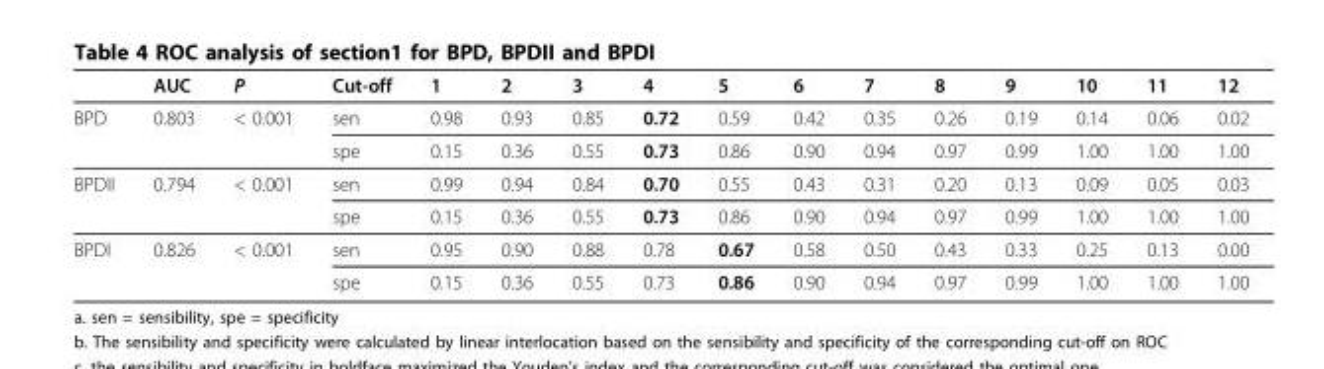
<table><thead><tr><td></td><td>AUC</td><td>P</td><td>Cut-off</td><td>1</td><td>2</td><td>3</td><td>4</td><td>5</td><td>6</td><td>7</td><td>8</td><td>9</td><td>10</td><td>11</td><td>12</td></tr></thead><tbody><tr><td rowspan="2">BPD</td><td>0.803</td><td>&lt; 0.001</td><td>sen</td><td>0.98</td><td>0.93</td><td>0.85</td><td>0.72</td><td>0.59</td><td>0.42</td><td>0.35</td><td>0.26</td><td>0.19</td><td>0.14</td><td>0.06</td><td>0.02</td></tr><tr><td></td><td></td><td>spe</td><td>0.15</td><td>0.36</td><td>0.55</td><td>0.73</td><td>0.86</td><td>0.90</td><td>0.94</td><td>0.97</td><td>0.99</td><td>1.00</td><td>1.00</td><td>1.00</td></tr><tr><td rowspan="2">BPDII</td><td>0.794</td><td>&lt; 0.001</td><td>sen</td><td>0.99</td><td>0.94</td><td>0.84</td><td>0.70</td><td>0.55</td><td>0.43</td><td>0.31</td><td>0.20</td><td>0.13</td><td>0.09</td><td>0.05</td><td>0.03</td></tr><tr><td></td><td></td><td>spe</td><td>0.15</td><td>0.36</td><td>0.55</td><td>0.73</td><td>0.86</td><td>0.90</td><td>0.94</td><td>0.97</td><td>0.99</td><td>1.00</td><td>1.00</td><td>1.00</td></tr><tr><td rowspan="2">BPDI</td><td>0.826</td><td>&lt; 0.001</td><td>sen</td><td>0.95</td><td>0.90</td><td>0.88</td><td>0.78</td><td>0.67</td><td>0.58</td><td>0.50</td><td>0.43</td><td>0.33</td><td>0.25</td><td>0.13</td><td>0.00</td></tr><tr><td></td><td></td><td>spe</td><td>0.15</td><td>0.36</td><td>0.55</td><td>0.73</td><td>0.86</td><td>0.90</td><td>0.94</td><td>0.97</td><td>0.99</td><td>1.00</td><td>1.00</td><td>1.00</td></tr></tbody></table>